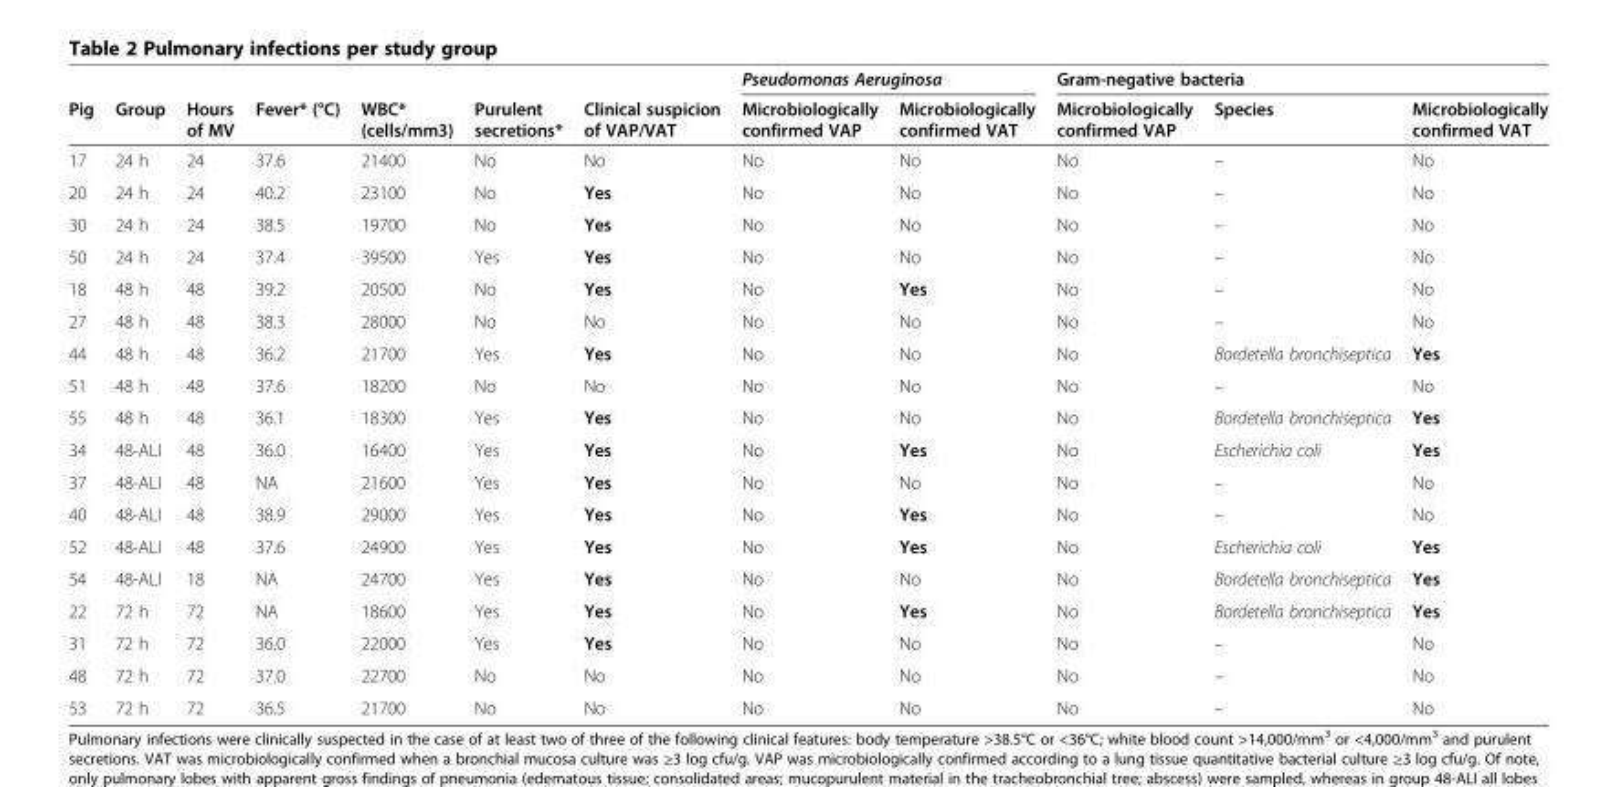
<table><thead><tr><td rowspan="2">Pig</td><td rowspan="2">Group</td><td rowspan="2">Hours of MV</td><td rowspan="2">Fever* (°C)</td><td rowspan="2">WBC* (cells/mm3)</td><td rowspan="2">Purulent secretions*</td><td rowspan="2">Clinical suspicion of VAP/VAT</td><td colspan="2">Pseudomonas Aeruginosa</td><td colspan="3">Gram-negative bacteria</td></tr><tr><td>Microbiologically confirmed VAP</td><td>Microbiologically confirmed VAT</td><td>Microbiologically confirmed VAP</td><td>Species</td><td>Microbiologically confirmed VAT</td></tr></thead><tbody><tr><td>17</td><td>24 h</td><td>24</td><td>37.6</td><td>21400</td><td>No</td><td>No</td><td>No</td><td>No</td><td>No</td><td>–</td><td>No</td></tr><tr><td>20</td><td>24 h</td><td>24</td><td>40.2</td><td>23100</td><td>No</td><td>Yes</td><td>No</td><td>No</td><td>No</td><td>–</td><td>No</td></tr><tr><td>30</td><td>24 h</td><td>24</td><td>38.5</td><td>19700</td><td>No</td><td>Yes</td><td>No</td><td>No</td><td>No</td><td>–</td><td>No</td></tr><tr><td>50</td><td>24 h</td><td>24</td><td>37.4</td><td>39500</td><td>Yes</td><td>Yes</td><td>No</td><td>No</td><td>No</td><td>–</td><td>No</td></tr><tr><td>18</td><td>48 h</td><td>48</td><td>39.2</td><td>20500</td><td>No</td><td>Yes</td><td>No</td><td>Yes</td><td>No</td><td>–</td><td>No</td></tr><tr><td>27</td><td>48 h</td><td>48</td><td>38.3</td><td>28000</td><td>No</td><td>No</td><td>No</td><td>No</td><td>No</td><td>–</td><td>No</td></tr><tr><td>44</td><td>48 h</td><td>48</td><td>36.2</td><td>21700</td><td>Yes</td><td>Yes</td><td>No</td><td>No</td><td>No</td><td>Bordetella bronchiseptica</td><td>Yes</td></tr><tr><td>51</td><td>48 h</td><td>48</td><td>37.6</td><td>18200</td><td>No</td><td>No</td><td>No</td><td>No</td><td>No</td><td>–</td><td>No</td></tr><tr><td>55</td><td>48 h</td><td>48</td><td>36.1</td><td>18300</td><td>Yes</td><td>Yes</td><td>No</td><td>No</td><td>No</td><td>Bordetella bronchiseptica</td><td>Yes</td></tr><tr><td>34</td><td>48-ALI</td><td>48</td><td>36.0</td><td>16400</td><td>Yes</td><td>Yes</td><td>No</td><td>Yes</td><td>No</td><td>Escherichia coli</td><td>Yes</td></tr><tr><td>37</td><td>48-ALI</td><td>48</td><td>NA</td><td>21600</td><td>Yes</td><td>Yes</td><td>No</td><td>No</td><td>No</td><td>–</td><td>No</td></tr><tr><td>40</td><td>48-ALI</td><td>48</td><td>38.9</td><td>29000</td><td>Yes</td><td>Yes</td><td>No</td><td>Yes</td><td>No</td><td>–</td><td>No</td></tr><tr><td>52</td><td>48-ALI</td><td>48</td><td>37.6</td><td>24900</td><td>Yes</td><td>Yes</td><td>No</td><td>Yes</td><td>No</td><td>Escherichia coli</td><td>Yes</td></tr><tr><td>54</td><td>48-ALI</td><td>18</td><td>NA</td><td>24700</td><td>Yes</td><td>Yes</td><td>No</td><td>No</td><td>No</td><td>Bordetella bronchiseptica</td><td>Yes</td></tr><tr><td>22</td><td>72 h</td><td>72</td><td>NA</td><td>18600</td><td>Yes</td><td>Yes</td><td>No</td><td>Yes</td><td>No</td><td>Bordetella bronchiseptica</td><td>Yes</td></tr><tr><td>31</td><td>72 h</td><td>72</td><td>36.0</td><td>22000</td><td>Yes</td><td>Yes</td><td>No</td><td>No</td><td>No</td><td>–</td><td>No</td></tr><tr><td>48</td><td>72 h</td><td>72</td><td>37.0</td><td>22700</td><td>No</td><td>No</td><td>No</td><td>No</td><td>No</td><td>–</td><td>No</td></tr><tr><td>53</td><td>72 h</td><td>72</td><td>36.5</td><td>21700</td><td>No</td><td>No</td><td>No</td><td>No</td><td>No</td><td>–</td><td>No</td></tr></tbody></table>